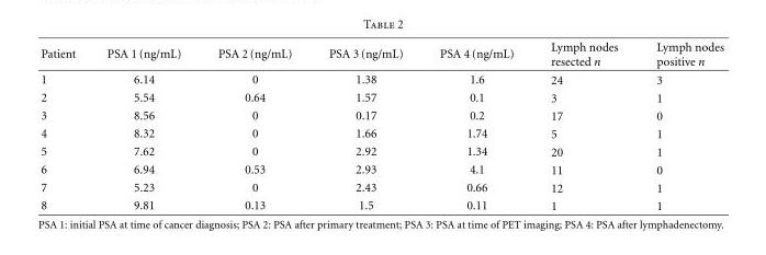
<table><thead><tr><td>Patient</td><td>PSA 1 (ng/mL)</td><td>PSA 2 (ng/mL)</td><td>PSA 3 (ng/mL)</td><td>PSA 4 (ng/mL)</td><td>Lymph nodes resected n</td><td>Lymph nodes positive n</td></tr></thead><tbody><tr><td>1</td><td>6.14</td><td>0</td><td>1.38</td><td>1.6</td><td>24</td><td>3</td></tr><tr><td>2</td><td>5.54</td><td>0.64</td><td>1.57</td><td>0.1</td><td>3</td><td>1</td></tr><tr><td>3</td><td>8.56</td><td>0</td><td>0.17</td><td>0.2</td><td>17</td><td>0</td></tr><tr><td>4</td><td>8.32</td><td>0</td><td>1.66</td><td>1.74</td><td>5</td><td>1</td></tr><tr><td>5</td><td>7.62</td><td>0</td><td>2.92</td><td>1.34</td><td>20</td><td>1</td></tr><tr><td>6</td><td>6.94</td><td>0.53</td><td>2.93</td><td>4.1</td><td>11</td><td>0</td></tr><tr><td>7</td><td>5.23</td><td>0</td><td>2.43</td><td>0.66</td><td>12</td><td>1</td></tr><tr><td>8</td><td>9.81</td><td>0.13</td><td>1.5</td><td>0.11</td><td>1</td><td>1</td></tr></tbody></table>